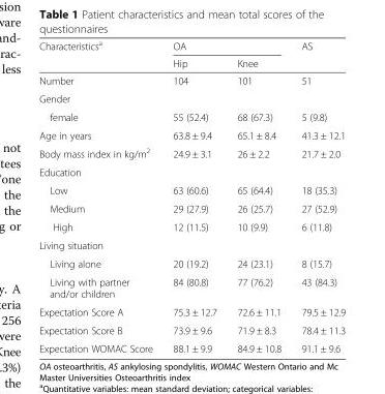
<table><thead><tr><td rowspan="2">Characteristics<sup>a</sup></td><td colspan="2">OA</td><td rowspan="2">AS</td></tr><tr><td>Hip</td><td>Knee</td></tr></thead><tbody><tr><td>Number</td><td>104</td><td>101</td><td>51</td></tr><tr><td colspan="4">Gender</td></tr><tr><td>female</td><td>55 (52.4)</td><td>68 (67.3)</td><td>5 (9.8)</td></tr><tr><td>Age in years</td><td>63.8 ± 9.4</td><td>65.1 ± 8.4</td><td>41.3 ± 12.1</td></tr><tr><td>Body mass index in kg/m<sup>2</sup></td><td>24.9 ± 3.1</td><td>26 ± 2.2</td><td>21.7 ± 2.0</td></tr><tr><td colspan="4">Education</td></tr><tr><td>Low</td><td>63 (60.6)</td><td>65 (64.4)</td><td>18 (35.3)</td></tr><tr><td>Medium</td><td>29 (27.9)</td><td>26 (25.7)</td><td>27 (52.9)</td></tr><tr><td>High</td><td>12 (11.5)</td><td>10 (9.9)</td><td>6 (11.8)</td></tr><tr><td colspan="4">Living situation</td></tr><tr><td>Living alone</td><td>20 (19.2)</td><td>24 (23.1)</td><td>8 (15.7)</td></tr><tr><td>Living with partner and/or children</td><td>84 (80.8)</td><td>77 (76.2)</td><td>43 (84.3)</td></tr><tr><td>Expectation Score A</td><td>75.3 ± 12.7</td><td>72.6 ± 11.1</td><td>79.5 ± 12.9</td></tr><tr><td>Expectation Score B</td><td>73.9 ± 9.6</td><td>71.9 ± 8.3</td><td>78.4 ± 11.3</td></tr><tr><td>Expectation WOMAC Score</td><td>88.1 ± 9.9</td><td>84.9 ± 10.8</td><td>91.1 ± 9.6</td></tr></tbody></table>